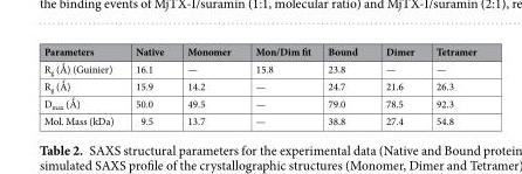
<table><thead><tr><td>Parameters</td><td>Native</td><td>Monomer</td><td>Mon/Dim fit</td><td>Bound</td><td>Dimer</td><td>Tetramer</td></tr></thead><tbody><tr><td>R<sub>g</sub> (Ǻ) (Guinier)</td><td>16.1</td><td>—</td><td>15.8</td><td>23.8</td><td>—</td><td>—</td></tr><tr><td>R<sub>g</sub> (Ǻ)</td><td>15.9</td><td>14.2</td><td>—</td><td>24.7</td><td>21.6</td><td>26.3</td></tr><tr><td>D<sub>max</sub> (Ǻ)</td><td>50.0</td><td>49.5</td><td>—</td><td>79.0</td><td>78.5</td><td>92.3</td></tr><tr><td>Mol. Mass (kDa)</td><td>9.5</td><td>13.7</td><td>—</td><td>38.8</td><td>27.4</td><td>54.8</td></tr></tbody></table>